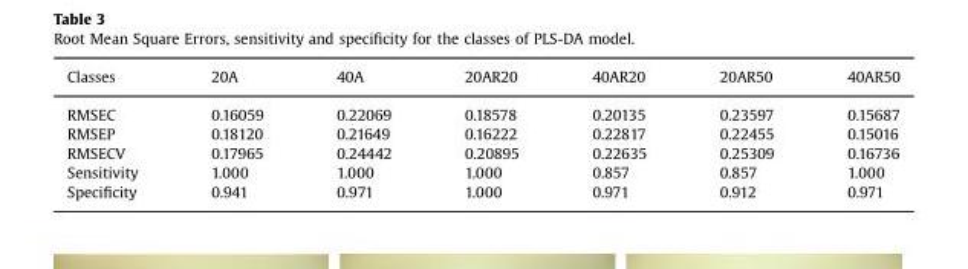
<table><thead><tr><td>Classes</td><td>20A</td><td>40A</td><td>20AR20</td><td>40AR20</td><td>20AR50</td><td>40AR50</td></tr></thead><tbody><tr><td>RMSEC</td><td>0.16059</td><td>0.22069</td><td>0.18578</td><td>0.20135</td><td>0.23597</td><td>0.15687</td></tr><tr><td>RMSEP</td><td>0.18120</td><td>0.21649</td><td>0.16222</td><td>0.22817</td><td>0.22455</td><td>0.15016</td></tr><tr><td>RMSECV</td><td>0.17965</td><td>0.24442</td><td>0.20895</td><td>0.22635</td><td>0.25309</td><td>0.16736</td></tr><tr><td>Sensitivity</td><td>1.000</td><td>1.000</td><td>1.000</td><td>0.857</td><td>0.857</td><td>1.000</td></tr><tr><td>Specificity</td><td>0.941</td><td>0.971</td><td>1.000</td><td>0.971</td><td>0.912</td><td>0.971</td></tr></tbody></table>